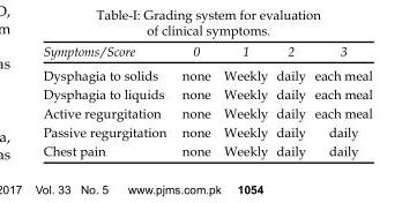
<table><thead><tr><td>Symptoms/Score</td><td>0</td><td>1</td><td>2</td><td>3</td></tr></thead><tbody><tr><td>Dysphagia to solids</td><td>none</td><td>Weekly</td><td>daily</td><td>each meal</td></tr><tr><td>Dysphagia to liquids</td><td>none</td><td>Weekly</td><td>daily</td><td>each meal</td></tr><tr><td>Active regurgitation</td><td>none</td><td>Weekly</td><td>daily</td><td>each meal</td></tr><tr><td>Passive regurgitation</td><td>none</td><td>Weekly</td><td>daily</td><td>daily</td></tr><tr><td>Chest pain</td><td>none</td><td>Weekly</td><td>daily</td><td>daily</td></tr></tbody></table>